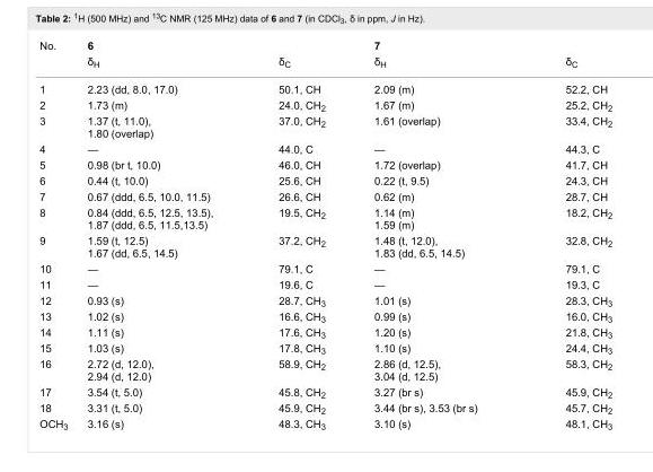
<table><tbody><tr><td rowspan="2">No.</td><td colspan="2">6</td><td colspan="2">7</td></tr><tr><td>δ<sub>H</sub></td><td>δ<sub>C</sub></td><td>δ<sub>H</sub></td><td>δ<sub>C</sub></td></tr><tr><td>1</td><td>2.23 (dd, 8.0, 17.0)</td><td>50.1, CH</td><td>2.09 (m)</td><td>52.2, CH</td></tr><tr><td>2</td><td>1.73 (m)</td><td>24.0, CH<sub>2</sub></td><td>1.67 (m)</td><td>25.2, CH<sub>2</sub></td></tr><tr><td>3</td><td>1.37 (t, 11.0), 1.80 (overlap)</td><td>37.0, CH<sub>2</sub></td><td>1.61 (overlap)</td><td>33.4, CH<sub>2</sub></td></tr><tr><td>4</td><td>—</td><td>44.0, C</td><td>—</td><td>44.3, C</td></tr><tr><td>5</td><td>0.98 (br t, 10.0)</td><td>46.0, CH</td><td>1.72 (overlap)</td><td>41.7, CH</td></tr><tr><td>6</td><td>0.44 (t, 10.0)</td><td>25.6, CH</td><td>0.22 (t, 9.5)</td><td>24.3, CH</td></tr><tr><td>7</td><td>0.67 (ddd, 6.5, 10.0, 11.5)</td><td>26.6, CH</td><td>0.62 (m)</td><td>28.7, CH</td></tr><tr><td>8</td><td>0.84 (ddd, 6.5, 12.5, 13.5), 1.87 (ddd, 6.5, 11.5,13.5)</td><td>19.5, CH<sub>2</sub></td><td>1.14 (m) 1.59 (m)</td><td>18.2, CH<sub>2</sub></td></tr><tr><td>9</td><td>1.59 (t, 12.5) 1.67 (dd, 6.5, 14.5)</td><td>37.2, CH<sub>2</sub></td><td>1.48 (t, 12.0), 1.83 (dd, 6.5, 14.5)</td><td>32.8, CH<sub>2</sub></td></tr><tr><td>10</td><td>—</td><td>79.1, C</td><td>—</td><td>79.1, C</td></tr><tr><td>11</td><td>—</td><td>19.6, C</td><td>—</td><td>19.3, C</td></tr><tr><td>12</td><td>0.93 (s)</td><td>28.7, CH<sub>3</sub></td><td>1.01 (s)</td><td>28.3, CH<sub>3</sub></td></tr><tr><td>13</td><td>1.02 (s)</td><td>16.6, CH<sub>3</sub></td><td>0.99 (s)</td><td>16.0, CH<sub>3</sub></td></tr><tr><td>14</td><td>1.11 (s)</td><td>17.6, CH<sub>3</sub></td><td>1.20 (s)</td><td>21.8, CH<sub>3</sub></td></tr><tr><td>15</td><td>1.03 (s)</td><td>17.8, CH<sub>3</sub></td><td>1.10 (s)</td><td>24.4, CH<sub>3</sub></td></tr><tr><td>16</td><td>2.72 (d, 12.0), 2.94 (d, 12.0)</td><td>58.9, CH<sub>2</sub></td><td>2.86 (d, 12.5), 3.04 (d, 12.5)</td><td>58.3, CH<sub>2</sub></td></tr><tr><td>17</td><td>3.54 (t, 5.0)</td><td>45.8, CH<sub>2</sub></td><td>3.27 (br s)</td><td>45.9, CH<sub>2</sub></td></tr><tr><td>18</td><td>3.31 (t, 5.0)</td><td>45.9, CH<sub>2</sub></td><td>3.44 (br s), 3.53 (br s)</td><td>45.7, CH<sub>2</sub></td></tr><tr><td>OCH<sub>3</sub></td><td>3.16 (s)</td><td>48.3, CH<sub>3</sub></td><td>3.10 (s)</td><td>48.1, CH<sub>3</sub></td></tr></tbody></table>